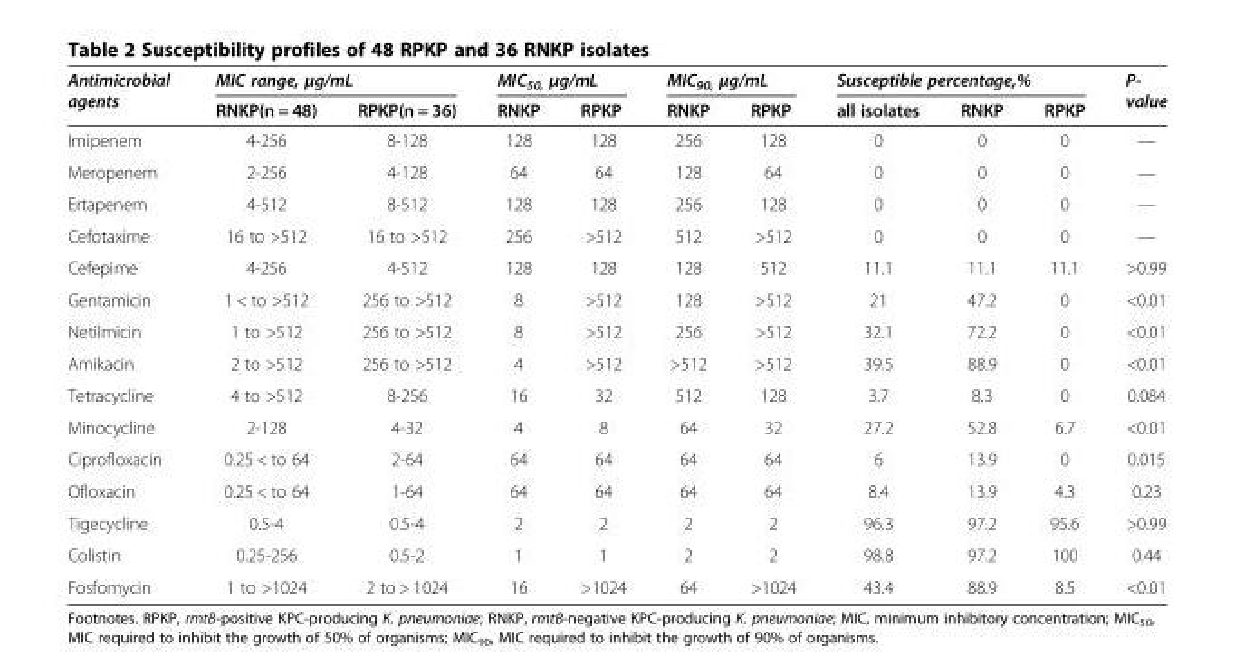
<table><thead><tr><td rowspan="2">Antimicrobial agents</td><td colspan="2">MIC range, μg/mL</td><td colspan="2">MIC<sub>50,</sub> μg/mL</td><td colspan="2">MIC<sub>90,</sub> μg/mL</td><td colspan="3">Susceptible percentage,%</td><td rowspan="2">P- value</td></tr><tr><td>RNKP(n = 48)</td><td>RPKP(n = 36)</td><td>RNKP</td><td>RPKP</td><td>RNKP</td><td>RPKP</td><td>all isolates</td><td>RNKP</td><td>RPKP</td></tr></thead><tbody><tr><td>Imipenem</td><td>4-256</td><td>8-128</td><td>128</td><td>128</td><td>256</td><td>128</td><td>0</td><td>0</td><td>0</td><td>—</td></tr><tr><td>Meropenem</td><td>2-256</td><td>4-128</td><td>64</td><td>64</td><td>128</td><td>64</td><td>0</td><td>0</td><td>0</td><td>—</td></tr><tr><td>Ertapenem</td><td>4-512</td><td>8-512</td><td>128</td><td>128</td><td>256</td><td>128</td><td>0</td><td>0</td><td>0</td><td>—</td></tr><tr><td>Cefotaxime</td><td>16 to &gt;512</td><td>16 to &gt;512</td><td>256</td><td>&gt;512</td><td>512</td><td>&gt;512</td><td>0</td><td>0</td><td>0</td><td>—</td></tr><tr><td>Cefepime</td><td>4-256</td><td>4-512</td><td>128</td><td>128</td><td>128</td><td>512</td><td>11.1</td><td>11.1</td><td>11.1</td><td>&gt;0.99</td></tr><tr><td>Gentamicin</td><td>1 &lt; to &gt;512</td><td>256 to &gt;512</td><td>8</td><td>&gt;512</td><td>128</td><td>&gt;512</td><td>21</td><td>47.2</td><td>0</td><td>&lt;0.01</td></tr><tr><td>Netilmicin</td><td>1 to &gt;512</td><td>256 to &gt;512</td><td>8</td><td>&gt;512</td><td>256</td><td>&gt;512</td><td>32.1</td><td>72.2</td><td>0</td><td>&lt;0.01</td></tr><tr><td>Amikacin</td><td>2 to &gt;512</td><td>256 to &gt;512</td><td>4</td><td>&gt;512</td><td>&gt;512</td><td>&gt;512</td><td>39.5</td><td>88.9</td><td>0</td><td>&lt;0.01</td></tr><tr><td>Tetracycline</td><td>4 to &gt;512</td><td>8-256</td><td>16</td><td>32</td><td>512</td><td>128</td><td>3.7</td><td>8.3</td><td>0</td><td>0.084</td></tr><tr><td>Minocycline</td><td>2-128</td><td>4-32</td><td>4</td><td>8</td><td>64</td><td>32</td><td>27.2</td><td>52.8</td><td>6.7</td><td>&lt;0.01</td></tr><tr><td>Ciprofloxacin</td><td>0.25 &lt; to 64</td><td>2-64</td><td>64</td><td>64</td><td>64</td><td>64</td><td>6</td><td>13.9</td><td>0</td><td>0.015</td></tr><tr><td>Ofloxacin</td><td>0.25 &lt; to 64</td><td>1-64</td><td>64</td><td>64</td><td>64</td><td>64</td><td>8.4</td><td>13.9</td><td>4.3</td><td>0.23</td></tr><tr><td>Tigecycline</td><td>0.5-4</td><td>0.5-4</td><td>2</td><td>2</td><td>2</td><td>2</td><td>96.3</td><td>97.2</td><td>95.6</td><td>&gt;0.99</td></tr><tr><td>Colistin</td><td>0.25-256</td><td>0.5-2</td><td>1</td><td>1</td><td>2</td><td>2</td><td>98.8</td><td>97.2</td><td>100</td><td>0.44</td></tr><tr><td>Fosfomycin</td><td>1 to &gt;1024</td><td>2 to &gt; 1024</td><td>16</td><td>&gt;1024</td><td>64</td><td>&gt;1024</td><td>43.4</td><td>88.9</td><td>8.5</td><td>&lt;0.01</td></tr></tbody></table>